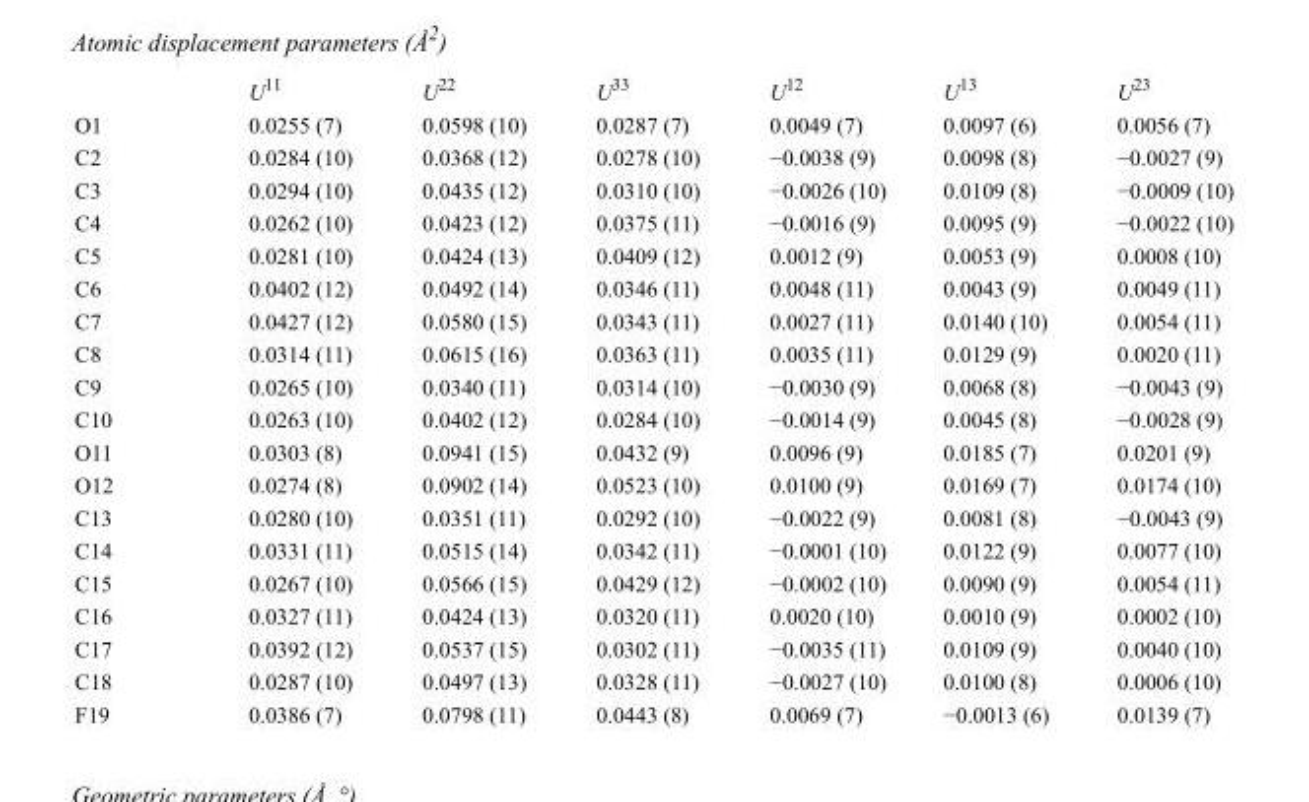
<table><thead><tr><td></td><td>U<sup>11</sup></td><td>U<sup>22</sup></td><td>U<sup>33</sup></td><td>U<sup>12</sup></td><td>U<sup>13</sup></td><td>U<sup>23</sup></td></tr></thead><tbody><tr><td>O1</td><td>0.0255 (7)</td><td>0.0598 (10)</td><td>0.0287 (7)</td><td>0.0049 (7)</td><td>0.0097 (6)</td><td>0.0056 (7)</td></tr><tr><td>C2</td><td>0.0284 (10)</td><td>0.0368 (12)</td><td>0.0278 (10)</td><td>−0.0038 (9)</td><td>0.0098 (8)</td><td>−0.0027 (9)</td></tr><tr><td>C3</td><td>0.0294 (10)</td><td>0.0435 (12)</td><td>0.0310 (10)</td><td>−0.0026 (10)</td><td>0.0109 (8)</td><td>−0.0009 (10)</td></tr><tr><td>C4</td><td>0.0262 (10)</td><td>0.0423 (12)</td><td>0.0375 (11)</td><td>−0.0016 (9)</td><td>0.0095 (9)</td><td>−0.0022 (10)</td></tr><tr><td>C5</td><td>0.0281 (10)</td><td>0.0424 (13)</td><td>0.0409 (12)</td><td>0.0012 (9)</td><td>0.0053 (9)</td><td>0.0008 (10)</td></tr><tr><td>C6</td><td>0.0402 (12)</td><td>0.0492 (14)</td><td>0.0346 (11)</td><td>0.0048 (11)</td><td>0.0043 (9)</td><td>0.0049 (11)</td></tr><tr><td>C7</td><td>0.0427 (12)</td><td>0.0580 (15)</td><td>0.0343 (11)</td><td>0.0027 (11)</td><td>0.0140 (10)</td><td>0.0054 (11)</td></tr><tr><td>C8</td><td>0.0314 (11)</td><td>0.0615 (16)</td><td>0.0363 (11)</td><td>0.0035 (11)</td><td>0.0129 (9)</td><td>0.0020 (11)</td></tr><tr><td>C9</td><td>0.0265 (10)</td><td>0.0340 (11)</td><td>0.0314 (10)</td><td>−0.0030 (9)</td><td>0.0068 (8)</td><td>−0.0043 (9)</td></tr><tr><td>C10</td><td>0.0263 (10)</td><td>0.0402 (12)</td><td>0.0284 (10)</td><td>−0.0014 (9)</td><td>0.0045 (8)</td><td>−0.0028 (9)</td></tr><tr><td>O11</td><td>0.0303 (8)</td><td>0.0941 (15)</td><td>0.0432 (9)</td><td>0.0096 (9)</td><td>0.0185 (7)</td><td>0.0201 (9)</td></tr><tr><td>O12</td><td>0.0274 (8)</td><td>0.0902 (14)</td><td>0.0523 (10)</td><td>0.0100 (9)</td><td>0.0169 (7)</td><td>0.0174 (10)</td></tr><tr><td>C13</td><td>0.0280 (10)</td><td>0.0351 (11)</td><td>0.0292 (10)</td><td>−0.0022 (9)</td><td>0.0081 (8)</td><td>−0.0043 (9)</td></tr><tr><td>C14</td><td>0.0331 (11)</td><td>0.0515 (14)</td><td>0.0342 (11)</td><td>−0.0001 (10)</td><td>0.0122 (9)</td><td>0.0077 (10)</td></tr><tr><td>C15</td><td>0.0267 (10)</td><td>0.0566 (15)</td><td>0.0429 (12)</td><td>−0.0002 (10)</td><td>0.0090 (9)</td><td>0.0054 (11)</td></tr><tr><td>C16</td><td>0.0327 (11)</td><td>0.0424 (13)</td><td>0.0320 (11)</td><td>0.0020 (10)</td><td>0.0010 (9)</td><td>0.0002 (10)</td></tr><tr><td>C17</td><td>0.0392 (12)</td><td>0.0537 (15)</td><td>0.0302 (11)</td><td>−0.0035 (11)</td><td>0.0109 (9)</td><td>0.0040 (10)</td></tr><tr><td>C18</td><td>0.0287 (10)</td><td>0.0497 (13)</td><td>0.0328 (11)</td><td>−0.0027 (10)</td><td>0.0100 (8)</td><td>0.0006 (10)</td></tr><tr><td>F19</td><td>0.0386 (7)</td><td>0.0798 (11)</td><td>0.0443 (8)</td><td>0.0069 (7)</td><td>−0.0013 (6)</td><td>0.0139 (7)</td></tr></tbody></table>